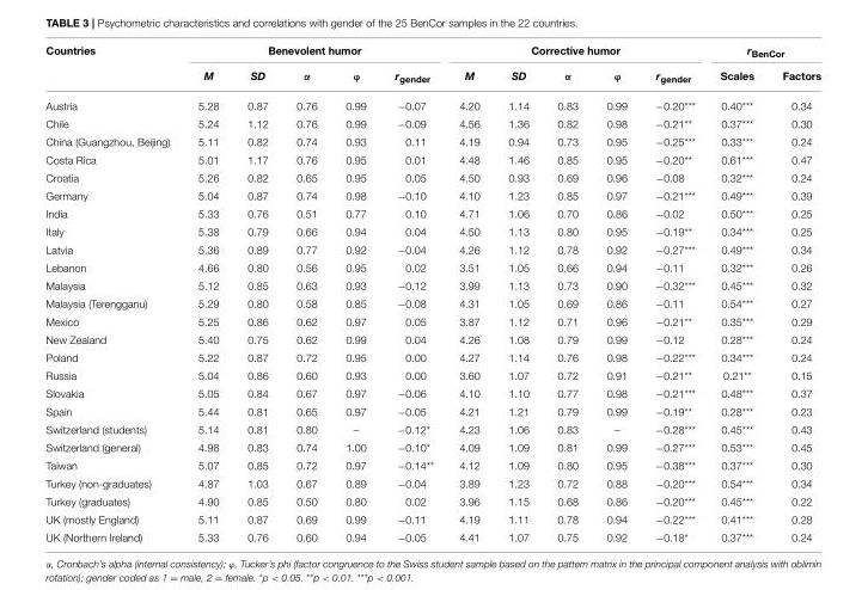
<table><thead><tr><td rowspan="2">Countries</td><td colspan="5">Benevolent humor</td><td colspan="5">Corrective humor</td><td colspan="2">r<sub>BenCor</sub></td></tr><tr><td>M</td><td>SD</td><td>α</td><td>ϕ</td><td>r<sub>gender</sub></td><td>M</td><td>SD</td><td>α</td><td>ϕ</td><td>r<sub>gender</sub></td><td>Scales</td><td>Factors</td></tr></thead><tbody><tr><td>Austria</td><td>5.28</td><td>0.87</td><td>0.76</td><td>0.99</td><td>−0.07</td><td>4.20</td><td>1.14</td><td>0.83</td><td>0.99</td><td>−0.20***</td><td>0.40***</td><td>0.34</td></tr><tr><td>Chile</td><td>5.24</td><td>1.12</td><td>0.76</td><td>0.99</td><td>−0.09</td><td>4.56</td><td>1.36</td><td>0.82</td><td>0.98</td><td>−0.21**</td><td>0.37***</td><td>0.30</td></tr><tr><td>China (Guangzhou, Beijing)</td><td>5.11</td><td>0.82</td><td>0.74</td><td>0.93</td><td>0.11</td><td>4.19</td><td>0.94</td><td>0.73</td><td>0.95</td><td>−0.25***</td><td>0.33***</td><td>0.24</td></tr><tr><td>Costa Rica</td><td>5.01</td><td>1.17</td><td>0.76</td><td>0.95</td><td>0.01</td><td>4.48</td><td>1.46</td><td>0.85</td><td>0.95</td><td>−0.20**</td><td>0.61***</td><td>0.47</td></tr><tr><td>Croatia</td><td>5.26</td><td>0.82</td><td>0.65</td><td>0.95</td><td>0.05</td><td>4.50</td><td>0.93</td><td>0.69</td><td>0.96</td><td>−0.08</td><td>0.32***</td><td>0.24</td></tr><tr><td>Germany</td><td>5.04</td><td>0.87</td><td>0.74</td><td>0.98</td><td>−0.10</td><td>4.10</td><td>1.23</td><td>0.85</td><td>0.97</td><td>−0.21***</td><td>0.49***</td><td>0.39</td></tr><tr><td>India</td><td>5.33</td><td>0.76</td><td>0.51</td><td>0.77</td><td>0.10</td><td>4.71</td><td>1.06</td><td>0.70</td><td>0.86</td><td>−0.02</td><td>0.50***</td><td>0.25</td></tr><tr><td>Italy</td><td>5.38</td><td>0.79</td><td>0.66</td><td>0.94</td><td>0.04</td><td>4.50</td><td>1.13</td><td>0.80</td><td>0.95</td><td>−0.19**</td><td>0.34***</td><td>0.25</td></tr><tr><td>Latvia</td><td>5.36</td><td>0.89</td><td>0.77</td><td>0.92</td><td>−0.04</td><td>4.26</td><td>1.12</td><td>0.78</td><td>0.92</td><td>−0.27***</td><td>0.49***</td><td>0.34</td></tr><tr><td>Lebanon</td><td>4.66</td><td>0.80</td><td>0.56</td><td>0.95</td><td>0.02</td><td>3.51</td><td>1.05</td><td>0.66</td><td>0.94</td><td>−0.11</td><td>0.32***</td><td>0.26</td></tr><tr><td>Malaysia</td><td>5.12</td><td>0.85</td><td>0.63</td><td>0.93</td><td>−0.12</td><td>3.99</td><td>1.13</td><td>0.73</td><td>0.90</td><td>−0.32***</td><td>0.45***</td><td>0.32</td></tr><tr><td>Malaysia (Terengganu)</td><td>5.29</td><td>0.80</td><td>0.58</td><td>0.85</td><td>−0.08</td><td>4.31</td><td>1.05</td><td>0.69</td><td>0.86</td><td>−0.11</td><td>0.54***</td><td>0.27</td></tr><tr><td>Mexico</td><td>5.25</td><td>0.86</td><td>0.62</td><td>0.97</td><td>0.05</td><td>3.87</td><td>1.12</td><td>0.71</td><td>0.96</td><td>−0.21**</td><td>0.35***</td><td>0.29</td></tr><tr><td>New Zealand</td><td>5.40</td><td>0.75</td><td>0.62</td><td>0.99</td><td>0.04</td><td>4.26</td><td>1.08</td><td>0.79</td><td>0.99</td><td>−0.12</td><td>0.28***</td><td>0.24</td></tr><tr><td>Poland</td><td>5.22</td><td>0.87</td><td>0.72</td><td>0.95</td><td>0.00</td><td>4.27</td><td>1.14</td><td>0.76</td><td>0.98</td><td>−0.22***</td><td>0.34***</td><td>0.24</td></tr><tr><td>Russia</td><td>5.04</td><td>0.86</td><td>0.60</td><td>0.93</td><td>0.00</td><td>3.60</td><td>1.07</td><td>0.72</td><td>0.91</td><td>−0.21**</td><td>0.21**</td><td>0.15</td></tr><tr><td>Slovakia</td><td>5.05</td><td>0.84</td><td>0.67</td><td>0.97</td><td>−0.06</td><td>4.10</td><td>1.10</td><td>0.77</td><td>0.98</td><td>−0.21***</td><td>0.48***</td><td>0.37</td></tr><tr><td>Spain</td><td>5.44</td><td>0.81</td><td>0.65</td><td>0.97</td><td>−0.05</td><td>4.21</td><td>1.21</td><td>0.79</td><td>0.99</td><td>−0.19**</td><td>0.28***</td><td>0.23</td></tr><tr><td>Switzerland (students)</td><td>5.14</td><td>0.81</td><td>0.80</td><td>–</td><td>−0.12*</td><td>4.23</td><td>1.06</td><td>0.83</td><td>–</td><td>−0.28***</td><td>0.45***</td><td>0.43</td></tr><tr><td>Switzerland (general)</td><td>4.98</td><td>0.83</td><td>0.74</td><td>1.00</td><td>−0.10*</td><td>4.09</td><td>1.09</td><td>0.81</td><td>0.99</td><td>−0.27***</td><td>0.53***</td><td>0.45</td></tr><tr><td>Taiwan</td><td>5.07</td><td>0.85</td><td>0.72</td><td>0.97</td><td>−0.14**</td><td>4.12</td><td>1.09</td><td>0.80</td><td>0.95</td><td>−0.38***</td><td>0.37***</td><td>0.30</td></tr><tr><td>Turkey (non-graduates)</td><td>4.87</td><td>1.03</td><td>0.67</td><td>0.89</td><td>−0.04</td><td>3.89</td><td>1.23</td><td>0.72</td><td>0.88</td><td>−0.20***</td><td>0.54***</td><td>0.34</td></tr><tr><td>Turkey (graduates)</td><td>4.90</td><td>0.85</td><td>0.50</td><td>0.80</td><td>0.02</td><td>3.96</td><td>1.15</td><td>0.68</td><td>0.86</td><td>−0.20***</td><td>0.45***</td><td>0.22</td></tr><tr><td>UK (mostly England)</td><td>5.11</td><td>0.87</td><td>0.69</td><td>0.99</td><td>−0.11</td><td>4.19</td><td>1.11</td><td>0.78</td><td>0.94</td><td>−0.22***</td><td>0.41***</td><td>0.28</td></tr><tr><td>UK (Northern Ireland)</td><td>5.33</td><td>0.76</td><td>0.60</td><td>0.94</td><td>−0.05</td><td>4.41</td><td>1.07</td><td>0.75</td><td>0.92</td><td>−0.18*</td><td>0.37***</td><td>0.24</td></tr></tbody></table>